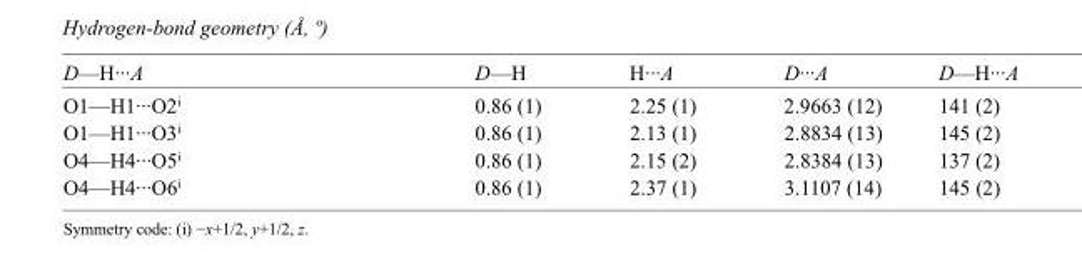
<table><tbody><tr><td>D—H···A</td><td>D—H</td><td>H···A</td><td>D···A</td><td>D—H···A</td></tr><tr><td>O1—H1···O2<sup>i</sup></td><td>0.86 (1)</td><td>2.25 (1)</td><td>2.9663 (12)</td><td>141 (2)</td></tr><tr><td>O1—H1···O3<sup>i</sup></td><td>0.86 (1)</td><td>2.13 (1)</td><td>2.8834 (13)</td><td>145 (2)</td></tr><tr><td>O4—H4···O5<sup>i</sup></td><td>0.86 (1)</td><td>2.15 (2)</td><td>2.8384 (13)</td><td>137 (2)</td></tr><tr><td>O4—H4···O6<sup>i</sup></td><td>0.86 (1)</td><td>2.37 (1)</td><td>3.1107 (14)</td><td>145 (2)</td></tr></tbody></table>